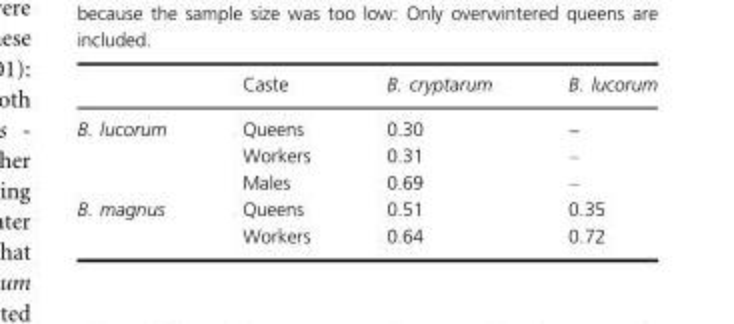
<table><thead><tr><td></td><td>Caste</td><td>B. cryptarum</td><td>B. lucorum</td></tr></thead><tbody><tr><td rowspan="3">B. lucorum</td><td>Queens</td><td>0.30</td><td>–</td></tr><tr><td>Workers</td><td>0.31</td><td>–</td></tr><tr><td>Males</td><td>0.69</td><td>–</td></tr><tr><td rowspan="2">B. magnus</td><td>Queens</td><td>0.51</td><td>0.35</td></tr><tr><td>Workers</td><td>0.64</td><td>0.72</td></tr></tbody></table>